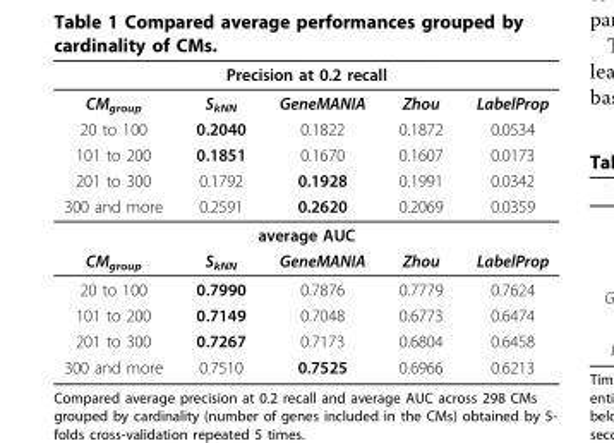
<table><thead><tr><td colspan="5">Precision at 0.2 recall</td></tr><tr><td>CM<sub>group</sub></td><td>S<sub>kNN</sub></td><td>GeneMANIA</td><td>Zhou</td><td>LabelProp</td></tr></thead><tbody><tr><td>20 to 100</td><td>0.2040</td><td>0.1822</td><td>0.1872</td><td>0.0534</td></tr><tr><td>101 to 200</td><td>0.1851</td><td>0.1670</td><td>0.1607</td><td>0.0173</td></tr><tr><td>201 to 300</td><td>0.1792</td><td>0.1928</td><td>0.1991</td><td>0.0342</td></tr><tr><td>300 and more</td><td>0.2591</td><td>0.2620</td><td>0.2069</td><td>0.0359</td></tr><tr><td colspan="5">average AUC</td></tr><tr><td>CM<sub>group</sub></td><td>S<sub>kNN</sub></td><td>GeneMANIA</td><td>Zhou</td><td>LabelProp</td></tr><tr><td>20 to 100</td><td>0.7990</td><td>0.7876</td><td>0.7779</td><td>0.7624</td></tr><tr><td>101 to 200</td><td>0.7149</td><td>0.7048</td><td>0.6773</td><td>0.6474</td></tr><tr><td>201 to 300</td><td>0.7267</td><td>0.7173</td><td>0.6804</td><td>0.6458</td></tr><tr><td>300 and more</td><td>0.7510</td><td>0.7525</td><td>0.6966</td><td>0.6213</td></tr></tbody></table>